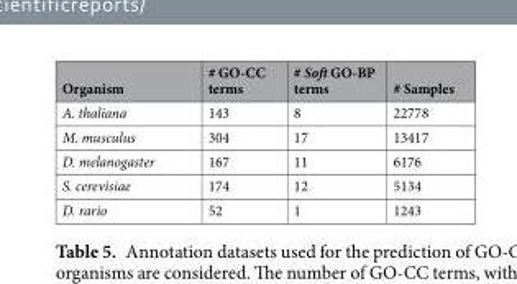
<table><thead><tr><td>Organism</td><td># GO-CC terms</td><td># Soft GO-BP terms</td><td># Samples</td></tr></thead><tbody><tr><td>A. thaliana</td><td>143</td><td>8</td><td>22778</td></tr><tr><td>M. musculus</td><td>304</td><td>17</td><td>13417</td></tr><tr><td>D. melanogaster</td><td>167</td><td>11</td><td>6176</td></tr><tr><td>S. cerevisiae</td><td>174</td><td>12</td><td>5134</td></tr><tr><td>D. rario</td><td>52</td><td>1</td><td>1243</td></tr></tbody></table>